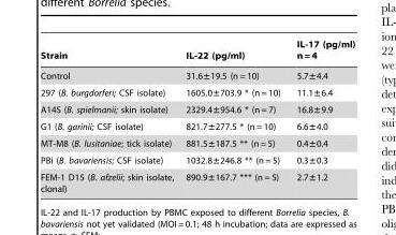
<table><thead><tr><td>Strain</td><td>IL-22 (pg/ml)</td><td>IL-17 (pg/ml) n = 4</td></tr></thead><tbody><tr><td>Control</td><td>31.6±19.5 (n = 10)</td><td>5.7±4.4</td></tr><tr><td>297 (B. burgdorferi; CSF isolate)</td><td>1605.0±703.9 * (n = 10)</td><td>11.1±6.4</td></tr><tr><td>A14S (B. spielmanii; skin isolate)</td><td>2329.4±954.6 * (n = 7)</td><td>16.8±9.9</td></tr><tr><td>G1 (B. garinii; CSF isolate)</td><td>821.7±277.5 * (n = 10)</td><td>6.6±4.0</td></tr><tr><td>MT-M8 (B. lusitaniae; tick isolate)</td><td>881.5±187.5 ** (n = 5)</td><td>0.4±0.4</td></tr><tr><td>PBi (B. bavariensis; CSF isolate)</td><td>1032.8±246.8 ** (n = 5)</td><td>0.3±0.3</td></tr><tr><td>FEM-1 D15 (B. afzelii; skin isolate, clonal)</td><td>890.9±167.7 *** (n = 5)</td><td>2.7±1.2</td></tr></tbody></table>